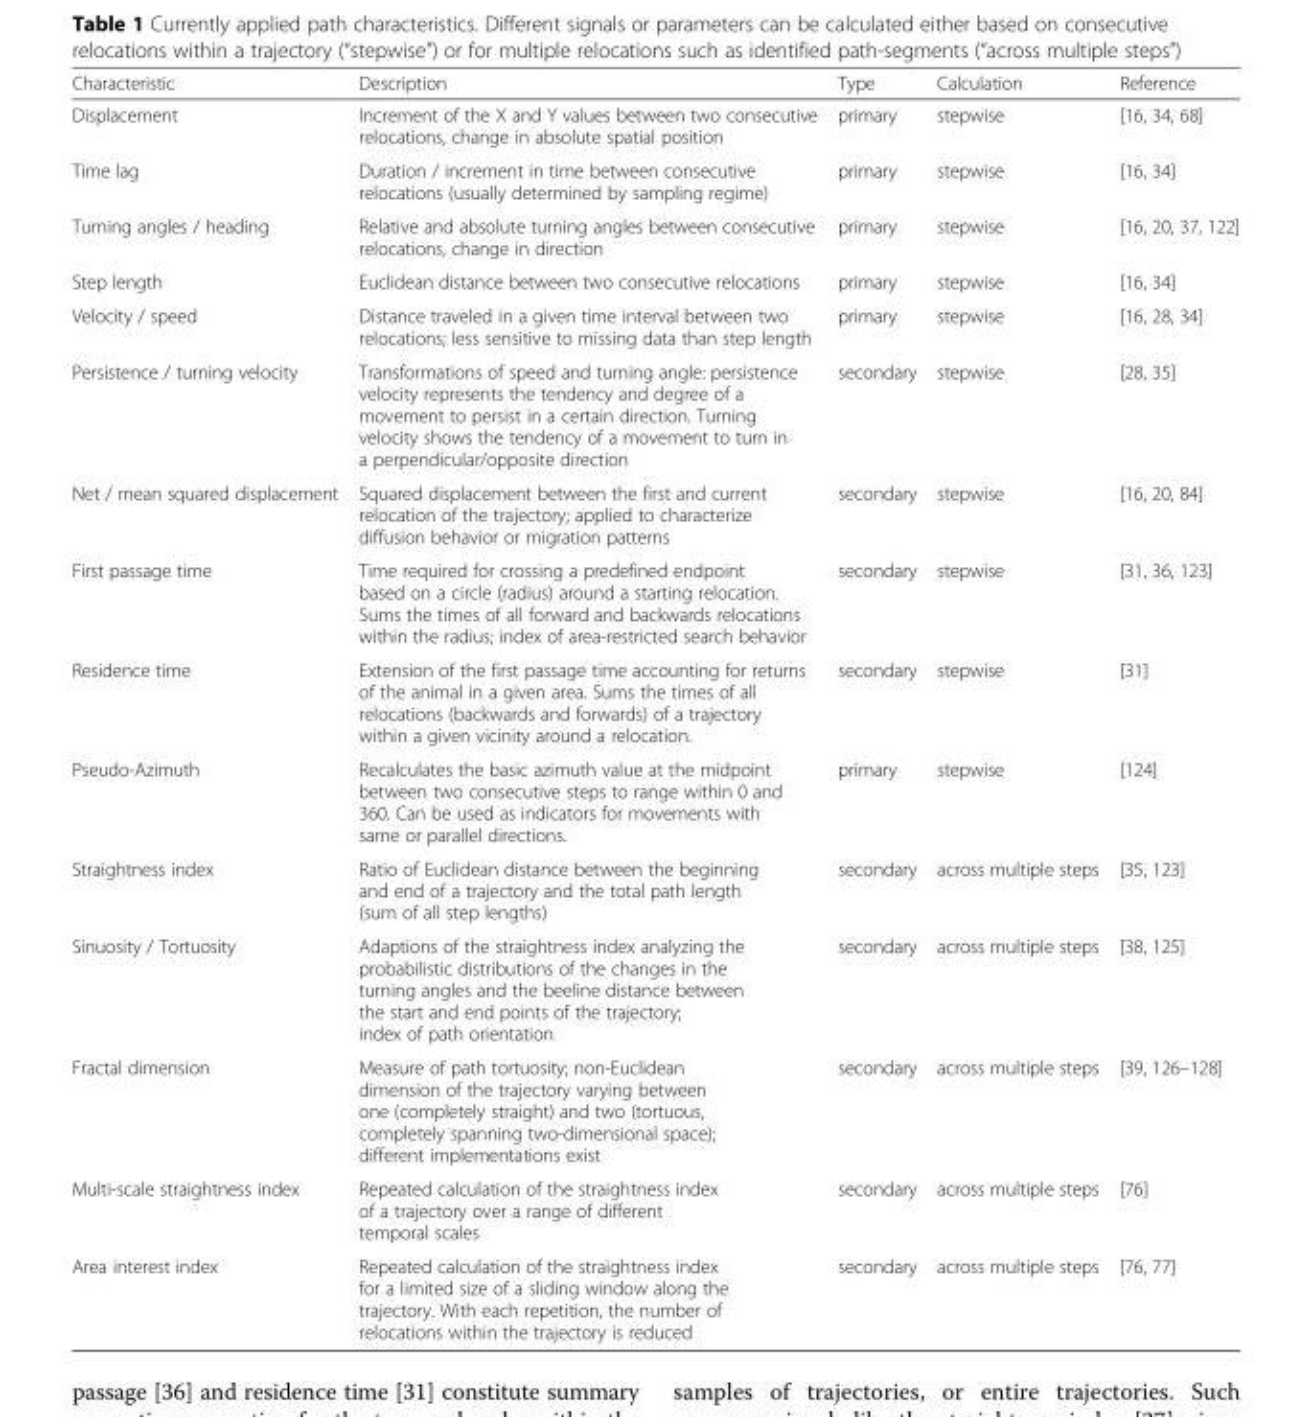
<table><thead><tr><td>Characteristic</td><td>Description</td><td>Type</td><td>Calculation</td><td>Reference</td></tr></thead><tbody><tr><td>Displacement</td><td>Increment of the X and Y values between two consecutive relocations, change in absolute spatial position</td><td>primary</td><td>stepwise</td><td>[16, 34, 68]</td></tr><tr><td>Time lag</td><td>Duration / increment in time between consecutive relocations (usually determined by sampling regime)</td><td>primary</td><td>stepwise</td><td>[16, 34]</td></tr><tr><td>Turning angles / heading</td><td>Relative and absolute turning angles between consecutive relocations, change in direction</td><td>primary</td><td>stepwise</td><td>[16, 20, 37, 122]</td></tr><tr><td>Step length</td><td>Euclidean distance between two consecutive relocations</td><td>primary</td><td>stepwise</td><td>[16, 34]</td></tr><tr><td>Velocity / speed</td><td>Distance traveled in a given time interval between two relocations; less sensitive to missing data than step length</td><td>primary</td><td>stepwise</td><td>[16, 28, 34]</td></tr><tr><td>Persistence / turning velocity</td><td>Transformations of speed and turning angle: persistence velocity represents the tendency and degree of a movement to persist in a certain direction. Turning velocity shows the tendency of a movement to turn in a perpendicular/opposite direction</td><td>secondary</td><td>stepwise</td><td>[28, 35]</td></tr><tr><td>Net / mean squared displacement</td><td>Squared displacement between the first and current relocation of the trajectory; applied to characterize diffusion behavior or migration patterns</td><td>secondary</td><td>stepwise</td><td>[16, 20, 84]</td></tr><tr><td>First passage time</td><td>Time required for crossing a predefined endpoint based on a circle (radius) around a starting relocation. Sums the times of all forward and backwards relocations within the radius; index of area-restricted search behavior</td><td>secondary</td><td>stepwise</td><td>[31, 36, 123]</td></tr><tr><td>Residence time</td><td>Extension of the first passage time accounting for returns of the animal in a given area. Sums the times of all relocations (backwards and forwards) of a trajectory within a given vicinity around a relocation.</td><td>secondary</td><td>stepwise</td><td>[31]</td></tr><tr><td>Pseudo-Azimuth</td><td>Recalculates the basic azimuth value at the midpoint between two consecutive steps to range within 0 and 360. Can be used as indicators for movements with same or parallel directions.</td><td>primary</td><td>stepwise</td><td>[124]</td></tr><tr><td>Straightness index</td><td>Ratio of Euclidean distance between the beginning and end of a trajectory and the total path length (sum of all step lengths)</td><td>secondary</td><td>across multiple steps</td><td>[35, 123]</td></tr><tr><td>Sinuosity / Tortuosity</td><td>Adaptions of the straightness index analyzing the probabilistic distributions of the changes in the turning angles and the beeline distance between the start and end points of the trajectory; index of path orientation</td><td>secondary</td><td>across multiple steps</td><td>[38, 125]</td></tr><tr><td>Fractal dimension</td><td>Measure of path tortuosity; non-Euclidean dimension of the trajectory varying between one (completely straight) and two (tortuous, completely spanning two-dimensional space); different implementations exist</td><td>secondary</td><td>across multiple steps</td><td>[39, 126–128]</td></tr><tr><td>Multi-scale straightness index</td><td>Repeated calculation of the straightness index of a trajectory over a range of different temporal scales</td><td>secondary</td><td>across multiple steps</td><td>[76]</td></tr><tr><td>Area interest index</td><td>Repeated calculation of the straightness index for a limited size of a sliding window along the trajectory. With each repetition, the number of relocations within the trajectory is reduced</td><td>secondary</td><td>across multiple steps</td><td>[76, 77]</td></tr></tbody></table>